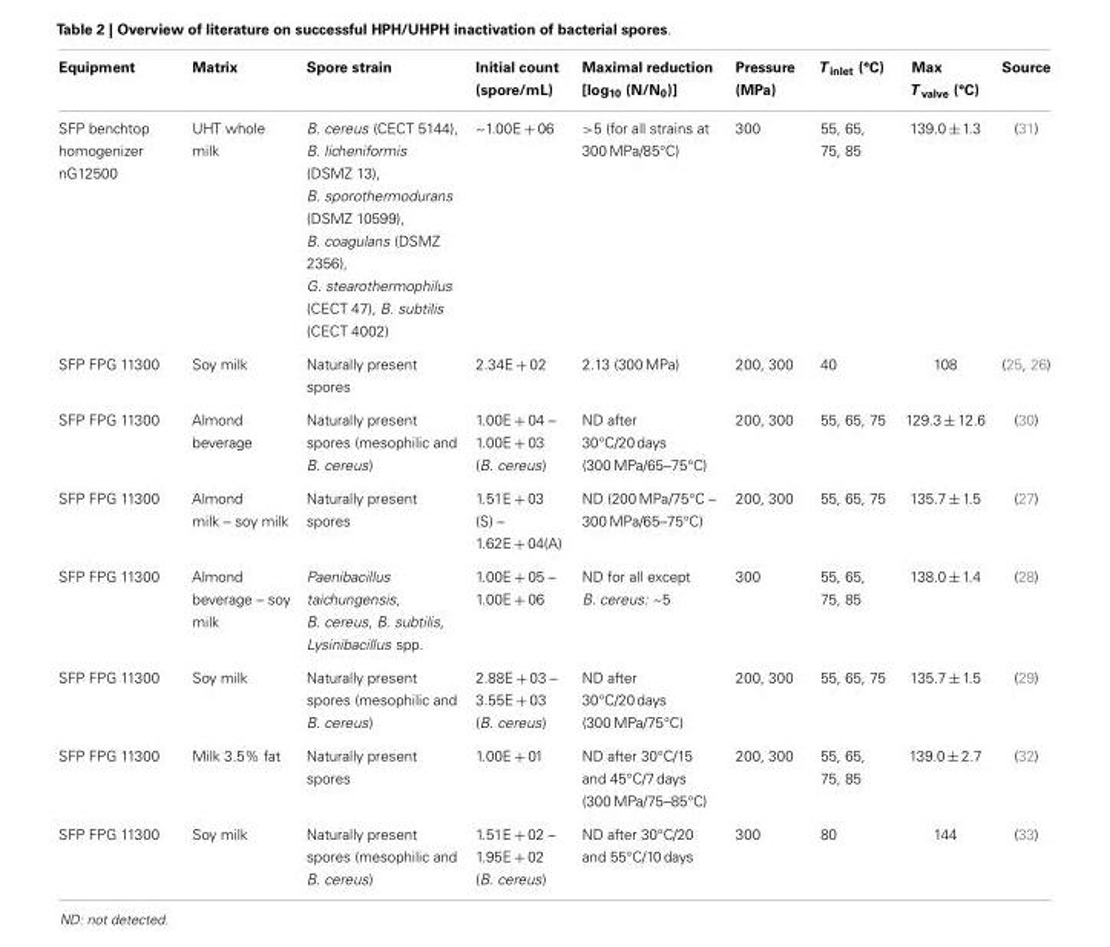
<table><thead><tr><td>Equipment</td><td>Matrix</td><td>Spore strain</td><td>Initial count (spore/mL)</td><td>Maximal reduction [log<sub>10</sub> (N/N<sub>0</sub>)]</td><td>Pressure (MPa)</td><td>T <sub>inlet</sub> (°C)</td><td>Max T <sub>valve</sub> (°C)</td><td>Source</td></tr></thead><tbody><tr><td>SFP benchtop homogenizer nG12500</td><td>UHT whole milk</td><td>B. cereus (CECT 5144), B. licheniformis (DSMZ 13), B. sporothermodurans (DSMZ 10599), B. coagulans (DSMZ 2356), G. stearothermophilus (CECT 47), B. subtilis (CECT 4002)</td><td>~1.00E + 06</td><td>&gt;5 (for all strains at 300 MPa/85°C)</td><td>300</td><td>55, 65, 75, 85</td><td>139.0 ± 1.3</td><td>(31)</td></tr><tr><td>SFP FPG 11300</td><td>Soy milk</td><td>Naturally present spores</td><td>2.34E + 02</td><td>2.13 (300 MPa)</td><td>200, 300</td><td>40</td><td>108</td><td>(25, 26)</td></tr><tr><td>SFP FPG 11300</td><td>Almond beverage</td><td>Naturally present spores (mesophilic and B. cereus)</td><td>1.00E + 04 – 1.00E + 03 (B. cereus)</td><td>ND after 30°C/20 days (300 MPa/65–75°C)</td><td>200, 300</td><td>55, 65, 75</td><td>129.3 ± 12.6</td><td>(30)</td></tr><tr><td>SFP FPG 11300</td><td>Almond milk – soy milk</td><td>Naturally present spores</td><td>1.51E + 03 (S) – 1.62E + 04(A)</td><td>ND (200 MPa/75°C – 300 MPa/65–75°C)</td><td>200, 300</td><td>55, 65, 75</td><td>135.7 ± 1.5</td><td>(27)</td></tr><tr><td>SFP FPG 11300</td><td>Almond beverage – soy milk</td><td>Paenibacillus taichungensis, B. cereus, B. subtilis, Lysinibacillus spp.</td><td>1.00E + 05 – 1.00E + 06</td><td>ND for all except B. cereus: ~5</td><td>300</td><td>55, 65, 75, 85</td><td>138.0 ± 1.4</td><td>(28)</td></tr><tr><td>SFP FPG 11300</td><td>Soy milk</td><td>Naturally present spores (mesophilic and B. cereus)</td><td>2.88E + 03 – 3.55E + 03 (B. cereus)</td><td>ND after 30°C/20 days (300 MPa/75°C)</td><td>200, 300</td><td>55, 65, 75</td><td>135.7 ± 1.5</td><td>(29)</td></tr><tr><td>SFP FPG 11300</td><td>Milk 3.5% fat</td><td>Naturally present spores</td><td>1.00E + 01</td><td>ND after 30°C/15 and 45°C/7 days (300 MPa/75–85°C)</td><td>200, 300</td><td>55, 65, 75, 85</td><td>139.0 ± 2.7</td><td>(32)</td></tr><tr><td>SFP FPG 11300</td><td>Soy milk</td><td>Naturally present spores (mesophilic and B. cereus)</td><td>1.51E + 02 – 1.95E + 02 (B. cereus)</td><td>ND after 30°C/20 and 55°C/10 days</td><td>300</td><td>80</td><td>144</td><td>(33)</td></tr></tbody></table>